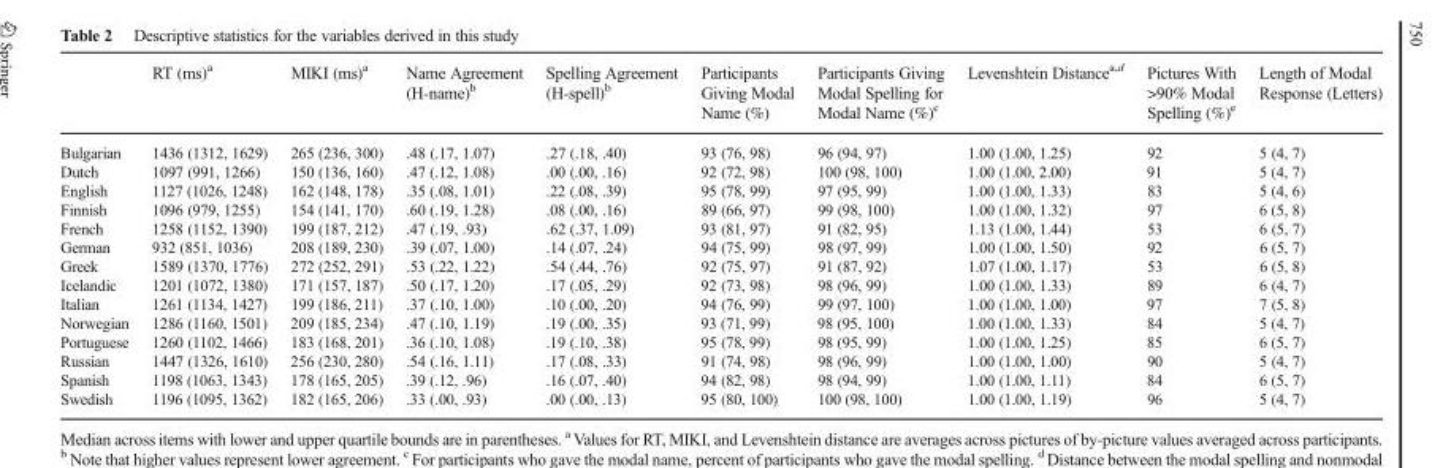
<table><thead><tr><td></td><td>RT (ms)<sup>a</sup></td><td>MIKI (ms)<sup>a</sup></td><td>Name Agreement (H-name)<sup>b</sup></td><td>Spelling Agreement (H-spell)<sup>b</sup></td><td>Participants Giving Modal Name (%)</td><td>Participants Giving Modal Spelling for Modal Name (%)<sup>c</sup></td><td>Levenshtein Distance<sup>a,d</sup></td><td>Pictures With &gt;90% Modal Spelling (%)<sup>e</sup></td><td>Length of Modal Response (Letters)</td></tr></thead><tbody><tr><td>Bulgarian</td><td>1436 (1312, 1629)</td><td>265 (236, 300)</td><td>.48 (.17, 1.07)</td><td>.27 (.18, .40)</td><td>93 (76, 98)</td><td>96 (94, 97)</td><td>1.00 (1.00, 1.25)</td><td>92</td><td>5 (4, 7)</td></tr><tr><td>Dutch</td><td>1097 (991, 1266)</td><td>150 (136, 160)</td><td>.47 (.12, 1.08)</td><td>.00 (.00, .16)</td><td>92 (72, 98)</td><td>100 (98, 100)</td><td>1.00 (1.00, 2.00)</td><td>91</td><td>5 (4, 7)</td></tr><tr><td>English</td><td>1127 (1026, 1248)</td><td>162 (148, 178)</td><td>.35 (.08, 1.01)</td><td>.22 (.08, .39)</td><td>95 (78, 99)</td><td>97 (95, 99)</td><td>1.00 (1.00, 1.33)</td><td>83</td><td>5 (4, 6)</td></tr><tr><td>Finnish</td><td>1096 (979, 1255)</td><td>154 (141, 170)</td><td>.60 (.19, 1.28)</td><td>.08 (.00, .16)</td><td>89 (66, 97)</td><td>99 (98, 100)</td><td>1.00 (1.00, 1.32)</td><td>97</td><td>6 (5, 8)</td></tr><tr><td>French</td><td>1258 (1152, 1390)</td><td>199 (187, 212)</td><td>.47 (.19, .93)</td><td>.62 (.37, 1.09)</td><td>93 (81, 97)</td><td>91 (82, 95)</td><td>1.13 (1.00, 1.44)</td><td>53</td><td>6 (5, 7)</td></tr><tr><td>German</td><td>932 (851, 1036)</td><td>208 (189, 230)</td><td>.39 (.07, 1.00)</td><td>.14 (.07, .24)</td><td>94 (75, 99)</td><td>98 (97, 99)</td><td>1.00 (1.00, 1.50)</td><td>92</td><td>6 (5, 7)</td></tr><tr><td>Greek</td><td>1589 (1370, 1776)</td><td>272 (252, 291)</td><td>.53 (.22, 1.22)</td><td>.54 (.44, .76)</td><td>92 (75, 97)</td><td>91 (87, 92)</td><td>1.07 (1.00, 1.17)</td><td>53</td><td>6 (5, 8)</td></tr><tr><td>Icelandic</td><td>1201 (1072, 1380)</td><td>171 (157, 187)</td><td>.50 (.17, 1.20)</td><td>.17 (.05, .29)</td><td>92 (73, 98)</td><td>98 (96, 99)</td><td>1.00 (1.00, 1.33)</td><td>89</td><td>6 (4, 7)</td></tr><tr><td>Italian</td><td>1261 (1134, 1427)</td><td>199 (186, 211)</td><td>.37 (.10, 1.00)</td><td>.10 (.00, .20)</td><td>94 (76, 99)</td><td>99 (97, 100)</td><td>1.00 (1.00, 1.00)</td><td>97</td><td>7 (5, 8)</td></tr><tr><td>Norwegian</td><td>1286 (1160, 1501)</td><td>209 (185, 234)</td><td>.47 (.10, 1.19)</td><td>.19 (.00, .35)</td><td>93 (71, 99)</td><td>98 (95, 100)</td><td>1.00 (1.00, 1.33)</td><td>84</td><td>5 (4, 7)</td></tr><tr><td>Portuguese</td><td>1260 (1102, 1466)</td><td>183 (168, 201)</td><td>.36 (.10, 1.08)</td><td>.19 (.10, .38)</td><td>95 (78, 99)</td><td>98 (95, 99)</td><td>1.00 (1.00, 1.25)</td><td>85</td><td>6 (5, 7)</td></tr><tr><td>Russian</td><td>1447 (1326, 1610)</td><td>256 (230, 280)</td><td>.54 (.16, 1.11)</td><td>.17 (.08, .33)</td><td>91 (74, 98)</td><td>98 (96, 99)</td><td>1.00 (1.00, 1.00)</td><td>90</td><td>5 (4, 7)</td></tr><tr><td>Spanish</td><td>1198 (1063, 1343)</td><td>178 (165, 205)</td><td>.39 (.12, .96)</td><td>.16 (.07, .40)</td><td>94 (82, 98)</td><td>98 (94, 99)</td><td>1.00 (1.00, 1.11)</td><td>84</td><td>6 (5, 7)</td></tr><tr><td>Swedish</td><td>1196 (1095, 1362)</td><td>182 (165, 206)</td><td>.33 (.00, .93)</td><td>.00 (.00, .13)</td><td>95 (80, 100)</td><td>100 (98, 100)</td><td>1.00 (1.00, 1.19)</td><td>96</td><td>5 (4, 7)</td></tr></tbody></table>